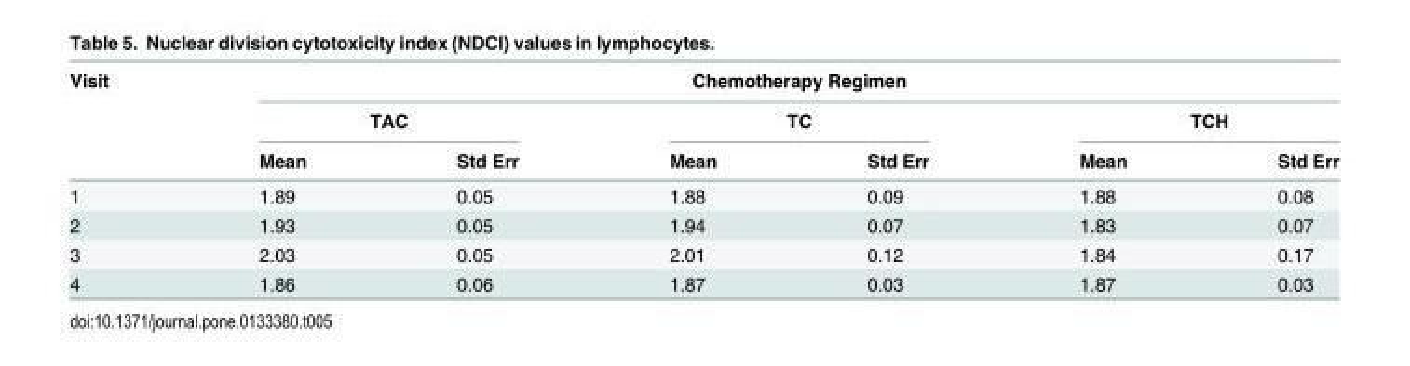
<table><thead><tr><td rowspan="3">Visit</td><td colspan="6">Chemotherapy Regimen</td></tr><tr><td colspan="2">TAC</td><td colspan="2">TC</td><td colspan="2">TCH</td></tr><tr><td>Mean</td><td>Std Err</td><td>Mean</td><td>Std Err</td><td>Mean</td><td>Std Err</td></tr></thead><tbody><tr><td>1</td><td>1.89</td><td>0.05</td><td>1.88</td><td>0.09</td><td>1.88</td><td>0.08</td></tr><tr><td>2</td><td>1.93</td><td>0.05</td><td>1.94</td><td>0.07</td><td>1.83</td><td>0.07</td></tr><tr><td>3</td><td>2.03</td><td>0.05</td><td>2.01</td><td>0.12</td><td>1.84</td><td>0.17</td></tr><tr><td>4</td><td>1.86</td><td>0.06</td><td>1.87</td><td>0.03</td><td>1.87</td><td>0.03</td></tr></tbody></table>